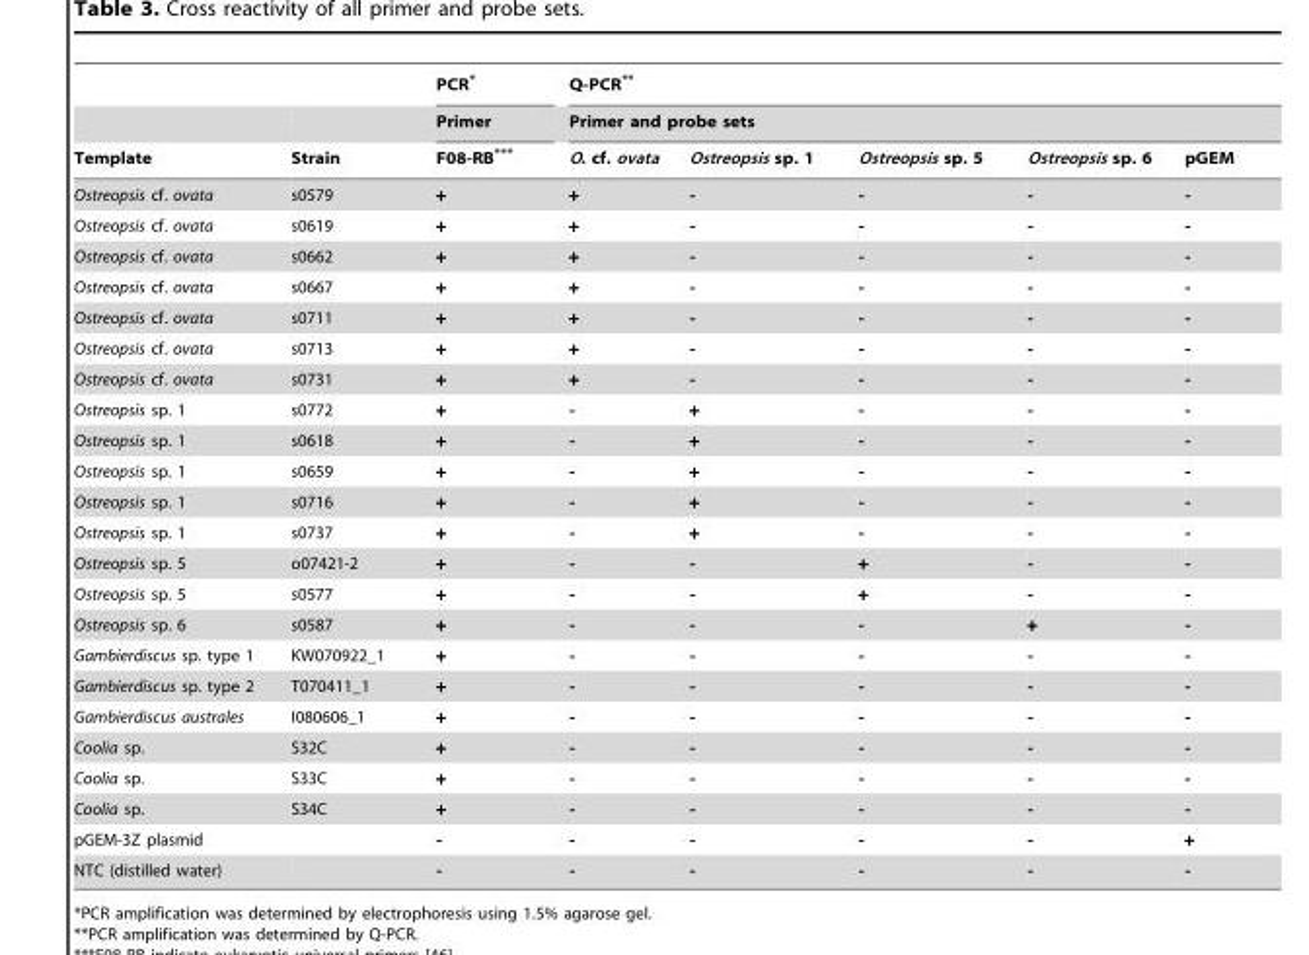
<table><thead><tr><td rowspan="3">Template</td><td rowspan="3">Strain</td><td rowspan="3">PCR* Primer F08-RB***</td><td rowspan="2" colspan="5">Q-PCR** Primer and probe sets</td></tr><tr></tr><tr><td>O. cf. ovata</td><td>Ostreopsis sp. 1</td><td>Ostreopsis sp. 5</td><td>Ostreopsis sp. 6</td><td>pGEM</td></tr></thead><tbody><tr><td>Ostreopsis cf. ovata</td><td>s0579</td><td>+</td><td>+</td><td>-</td><td>-</td><td>-</td><td>-</td></tr><tr><td>Ostreopsis cf. ovata</td><td>s0619</td><td>+</td><td>+</td><td>-</td><td>-</td><td>-</td><td>-</td></tr><tr><td>Ostreopsis cf. ovata</td><td>s0662</td><td>+</td><td>+</td><td>-</td><td>-</td><td>-</td><td>-</td></tr><tr><td>Ostreopsis cf. ovata</td><td>s0667</td><td>+</td><td>+</td><td>-</td><td>-</td><td>-</td><td>-</td></tr><tr><td>Ostreopsis cf. ovata</td><td>s0711</td><td>+</td><td>+</td><td>-</td><td>-</td><td>-</td><td>-</td></tr><tr><td>Ostreopsis cf. ovata</td><td>s0713</td><td>+</td><td>+</td><td>-</td><td>-</td><td>-</td><td>-</td></tr><tr><td>Ostreopsis cf. ovata</td><td>s0731</td><td>+</td><td>+</td><td>-</td><td>-</td><td>-</td><td>-</td></tr><tr><td>Ostreopsis sp. 1</td><td>s0772</td><td>+</td><td>-</td><td>+</td><td>-</td><td>-</td><td>-</td></tr><tr><td>Ostreopsis sp. 1</td><td>s0618</td><td>+</td><td>-</td><td>+</td><td>-</td><td>-</td><td>-</td></tr><tr><td>Ostreopsis sp. 1</td><td>s0659</td><td>+</td><td>-</td><td>+</td><td>-</td><td>-</td><td>-</td></tr><tr><td>Ostreopsis sp. 1</td><td>s0716</td><td>+</td><td>-</td><td>+</td><td>-</td><td>-</td><td>-</td></tr><tr><td>Ostreopsis sp. 1</td><td>s0737</td><td>+</td><td>-</td><td>+</td><td>-</td><td>-</td><td>-</td></tr><tr><td>Ostreopsis sp. 5</td><td>o07421-2</td><td>+</td><td>-</td><td>-</td><td>+</td><td>-</td><td>-</td></tr><tr><td>Ostreopsis sp. 5</td><td>s0577</td><td>+</td><td>-</td><td>-</td><td>+</td><td>-</td><td>-</td></tr><tr><td>Ostreopsis sp. 6</td><td>s0587</td><td>+</td><td>-</td><td>-</td><td>-</td><td>+</td><td>-</td></tr><tr><td>Gambierdiscus sp. type 1</td><td>KW070922_1</td><td>+</td><td>-</td><td>-</td><td>-</td><td>-</td><td>-</td></tr><tr><td>Gambierdiscus sp. type 2</td><td>T070411_1</td><td>+</td><td>-</td><td>-</td><td>-</td><td>-</td><td>-</td></tr><tr><td>Gambierdiscus australes</td><td>I080606_1</td><td>+</td><td>-</td><td>-</td><td>-</td><td>-</td><td>-</td></tr><tr><td>Coolia sp.</td><td>S32C</td><td>+</td><td>-</td><td>-</td><td>-</td><td>-</td><td>-</td></tr><tr><td>Coolia sp.</td><td>S33C</td><td>+</td><td>-</td><td>-</td><td>-</td><td>-</td><td>-</td></tr><tr><td>Coolia sp.</td><td>S34C</td><td>+</td><td>-</td><td>-</td><td>-</td><td>-</td><td>-</td></tr><tr><td>pGEM-3Z plasmid</td><td></td><td>-</td><td>-</td><td>-</td><td>-</td><td>-</td><td>+</td></tr><tr><td>NTC (distilled water)</td><td></td><td>-</td><td>-</td><td>-</td><td>-</td><td>-</td><td>-</td></tr></tbody></table>